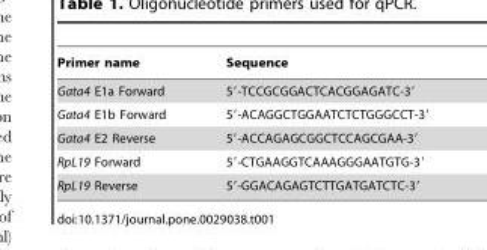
<table><thead><tr><td>Primer name</td><td>Sequence</td></tr></thead><tbody><tr><td>Gata4 E1a Forward</td><td>5′-TCCGCGGACTCACGGAGATC-3′</td></tr><tr><td>Gata4 E1b Forward</td><td>5′-ACAGGCTGGAATCTCTGGGCCT-3′</td></tr><tr><td>Gata4 E2 Reverse</td><td>5′-ACCAGAGCGGCTCCAGCGAA-3′</td></tr><tr><td>RpL19 Forward</td><td>5′-CTGAAGGTCAAAGGGAATGTG-3′</td></tr><tr><td>RpL19 Reverse</td><td>5′-GGACAGAGTCTTGATGATCTC-3′</td></tr></tbody></table>